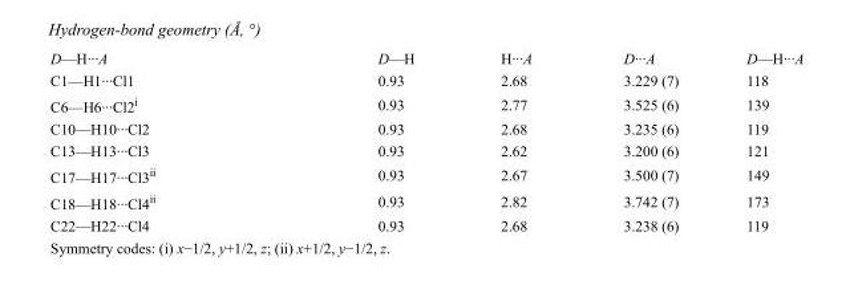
<table><tbody><tr><td>D—H···A</td><td>D—H</td><td>H···A</td><td>D···A</td><td>D—H···A</td></tr><tr><td>C1—H1···Cl1</td><td>0.93</td><td>2.68</td><td>3.229 (7)</td><td>118</td></tr><tr><td>C6—H6···Cl2i</td><td>0.93</td><td>2.77</td><td>3.525 (6)</td><td>139</td></tr><tr><td>C10—H10···Cl2</td><td>0.93</td><td>2.68</td><td>3.235 (6)</td><td>119</td></tr><tr><td>C13—H13···Cl3</td><td>0.93</td><td>2.62</td><td>3.200 (6)</td><td>121</td></tr><tr><td>C17—H17···Cl3ii</td><td>0.93</td><td>2.67</td><td>3.500 (7)</td><td>149</td></tr><tr><td>C18—H18···Cl4ii</td><td>0.93</td><td>2.82</td><td>3.742 (7)</td><td>173</td></tr><tr><td>C22—H22···Cl4</td><td>0.93</td><td>2.68</td><td>3.238 (6)</td><td>119</td></tr></tbody></table>